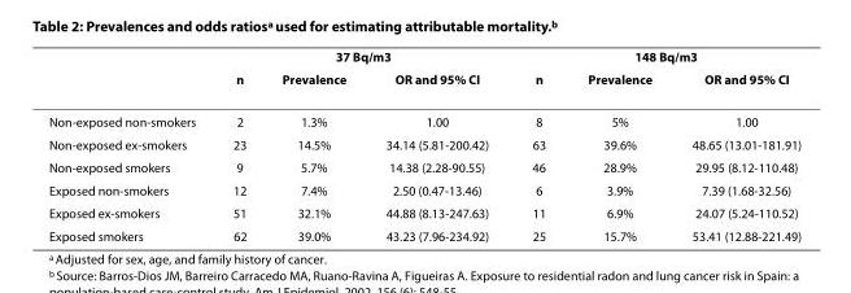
<table><thead><tr><td rowspan="2"></td><td colspan="3">37 Bq/m3</td><td colspan="3">148 Bq/m3</td></tr><tr><td>n</td><td>Prevalence</td><td>OR and 95% CI</td><td>n</td><td>Prevalence</td><td>OR and 95% CI</td></tr></thead><tbody><tr><td>Non-exposed non-smokers</td><td>2</td><td>1.3%</td><td>1.00</td><td>8</td><td>5%</td><td>1.00</td></tr><tr><td>Non-exposed ex-smokers</td><td>23</td><td>14.5%</td><td>34.14 (5.81-200.42)</td><td>63</td><td>39.6%</td><td>48.65 (13.01-181.91)</td></tr><tr><td>Non-exposed smokers</td><td>9</td><td>5.7%</td><td>14.38 (2.28-90.55)</td><td>46</td><td>28.9%</td><td>29.95 (8.12-110.48)</td></tr><tr><td>Exposed non-smokers</td><td>12</td><td>7.4%</td><td>2.50 (0.47-13.46)</td><td>6</td><td>3.9%</td><td>7.39 (1.68-32.56)</td></tr><tr><td>Exposed ex-smokers</td><td>51</td><td>32.1%</td><td>44.88 (8.13-247.63)</td><td>11</td><td>6.9%</td><td>24.07 (5.24-110.52)</td></tr><tr><td>Exposed smokers</td><td>62</td><td>39.0%</td><td>43.23 (7.96-234.92)</td><td>25</td><td>15.7%</td><td>53.41 (12.88-221.49)</td></tr></tbody></table>